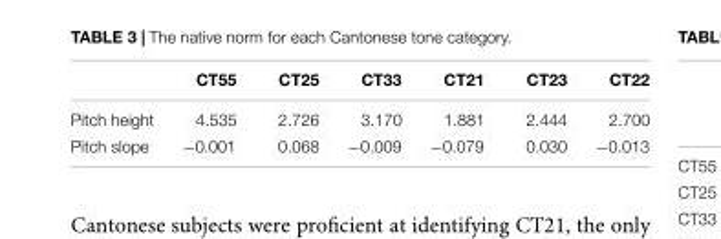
<table><thead><tr><td></td><td>CT55</td><td>CT25</td><td>CT33</td><td>CT21</td><td>CT23</td><td>CT22</td></tr></thead><tbody><tr><td>Pitch height</td><td>4.535</td><td>2.726</td><td>3.170</td><td>1.881</td><td>2.444</td><td>2.700</td></tr><tr><td>Pitch slope</td><td>−0.001</td><td>0.068</td><td>−0.009</td><td>−0.079</td><td>0.030</td><td>−0.013</td></tr></tbody></table>